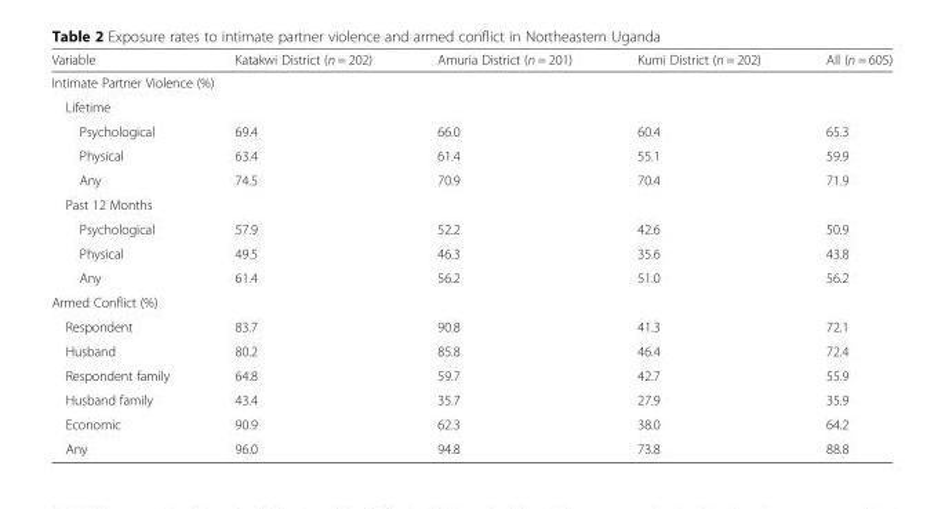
<table><thead><tr><td>Variable</td><td>Katakwi District (n = 202)</td><td>Amuria District (n = 201)</td><td>Kumi District (n = 202)</td><td>All (n = 605)</td></tr></thead><tbody><tr><td colspan="5">Intimate Partner Violence (%)</td></tr><tr><td colspan="5">Lifetime</td></tr><tr><td>Psychological</td><td>69.4</td><td>66.0</td><td>60.4</td><td>65.3</td></tr><tr><td>Physical</td><td>63.4</td><td>61.4</td><td>55.1</td><td>59.9</td></tr><tr><td>Any</td><td>74.5</td><td>70.9</td><td>70.4</td><td>71.9</td></tr><tr><td colspan="5">Past 12 Months</td></tr><tr><td>Psychological</td><td>57.9</td><td>52.2</td><td>42.6</td><td>50.9</td></tr><tr><td>Physical</td><td>49.5</td><td>46.3</td><td>35.6</td><td>43.8</td></tr><tr><td>Any</td><td>61.4</td><td>56.2</td><td>51.0</td><td>56.2</td></tr><tr><td colspan="5">Armed Conflict (%)</td></tr><tr><td>Respondent</td><td>83.7</td><td>90.8</td><td>41.3</td><td>72.1</td></tr><tr><td>Husband</td><td>80.2</td><td>85.8</td><td>46.4</td><td>72.4</td></tr><tr><td>Respondent family</td><td>64.8</td><td>59.7</td><td>42.7</td><td>55.9</td></tr><tr><td>Husband family</td><td>43.4</td><td>35.7</td><td>27.9</td><td>35.9</td></tr><tr><td>Economic</td><td>90.9</td><td>62.3</td><td>38.0</td><td>64.2</td></tr><tr><td>Any</td><td>96.0</td><td>94.8</td><td>73.8</td><td>88.8</td></tr></tbody></table>